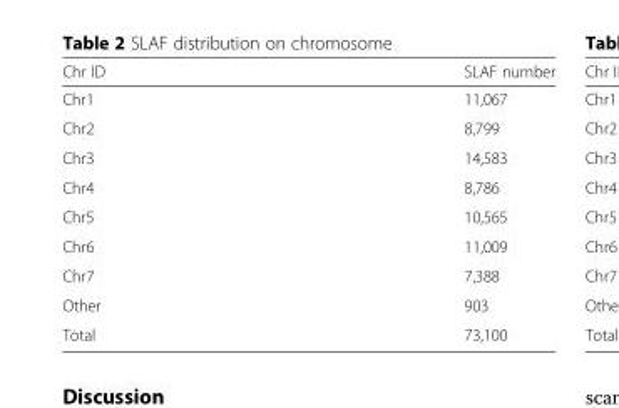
<table><thead><tr><td>Chr ID</td><td>SLAF number</td></tr></thead><tbody><tr><td>Chr1</td><td>11,067</td></tr><tr><td>Chr2</td><td>8,799</td></tr><tr><td>Chr3</td><td>14,583</td></tr><tr><td>Chr4</td><td>8,786</td></tr><tr><td>Chr5</td><td>10,565</td></tr><tr><td>Chr6</td><td>11,009</td></tr><tr><td>Chr7</td><td>7,388</td></tr><tr><td>Other</td><td>903</td></tr><tr><td>Total</td><td>73,100</td></tr></tbody></table>